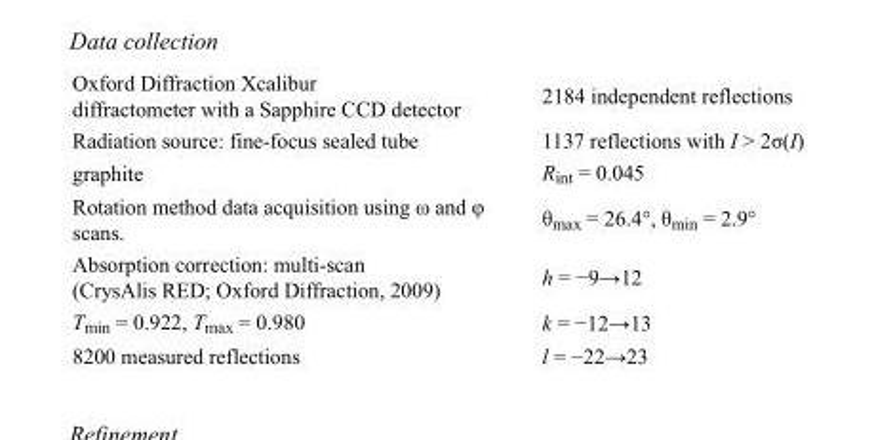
<table><tbody><tr><td>Oxford Diffraction Xcalibur diffractometer with a Sapphire CCD detector</td><td>2184 independent reflections</td></tr><tr><td>Radiation source: fine-focus sealed tube</td><td>1137 reflections with I &gt; 2σ(I)</td></tr><tr><td>graphite</td><td>R<sub>int</sub> = 0.045</td></tr><tr><td>Rotation method data acquisition using ω and φ scans.</td><td>θ<sub>max</sub> = 26.4°, θ<sub>min</sub> = 2.9°</td></tr><tr><td>Absorption correction: multi-scan (CrysAlis RED; Oxford Diffraction, 2009)</td><td>h = −9→12</td></tr><tr><td>T<sub>min</sub> = 0.922, T<sub>max</sub> = 0.980</td><td>k = −12→13</td></tr><tr><td>8200 measured reflections</td><td>l = −22→23</td></tr></tbody></table>